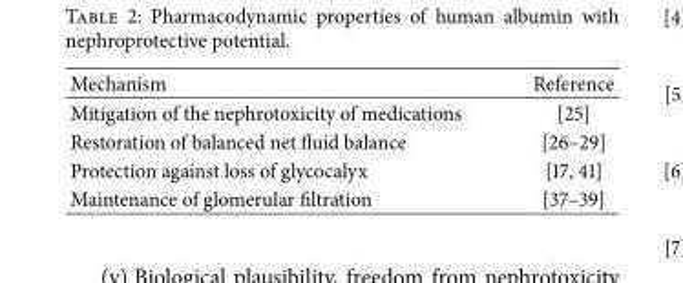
<table><thead><tr><td>Mechanism</td><td>Reference</td></tr></thead><tbody><tr><td>Mitigation of the nephrotoxicity of medications</td><td>[25]</td></tr><tr><td>Restoration of balanced net fluid balance</td><td>[26–29]</td></tr><tr><td>Protection against loss of glycocalyx</td><td>[17, 41]</td></tr><tr><td>Maintenance of glomerular filtration</td><td>[37–39]</td></tr></tbody></table>